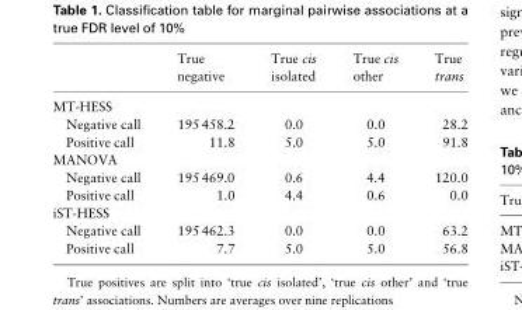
<table><thead><tr><td></td><td>True negative</td><td>True cis isolated</td><td>True cis other</td><td>True trans</td></tr></thead><tbody><tr><td colspan="5">MT-HESS</td></tr><tr><td>Negative call</td><td>195 458.2</td><td>0.0</td><td>0.0</td><td>28.2</td></tr><tr><td>Positive call</td><td>11.8</td><td>5.0</td><td>5.0</td><td>91.8</td></tr><tr><td colspan="5">MANOVA</td></tr><tr><td>Negative call</td><td>195 469.0</td><td>0.6</td><td>4.4</td><td>120.0</td></tr><tr><td>Positive call</td><td>1.0</td><td>4.4</td><td>0.6</td><td>0.0</td></tr><tr><td colspan="5">iST-HESS</td></tr><tr><td>Negative call</td><td>195 462.3</td><td>0.0</td><td>0.0</td><td>63.2</td></tr><tr><td>Positive call</td><td>7.7</td><td>5.0</td><td>5.0</td><td>56.8</td></tr></tbody></table>